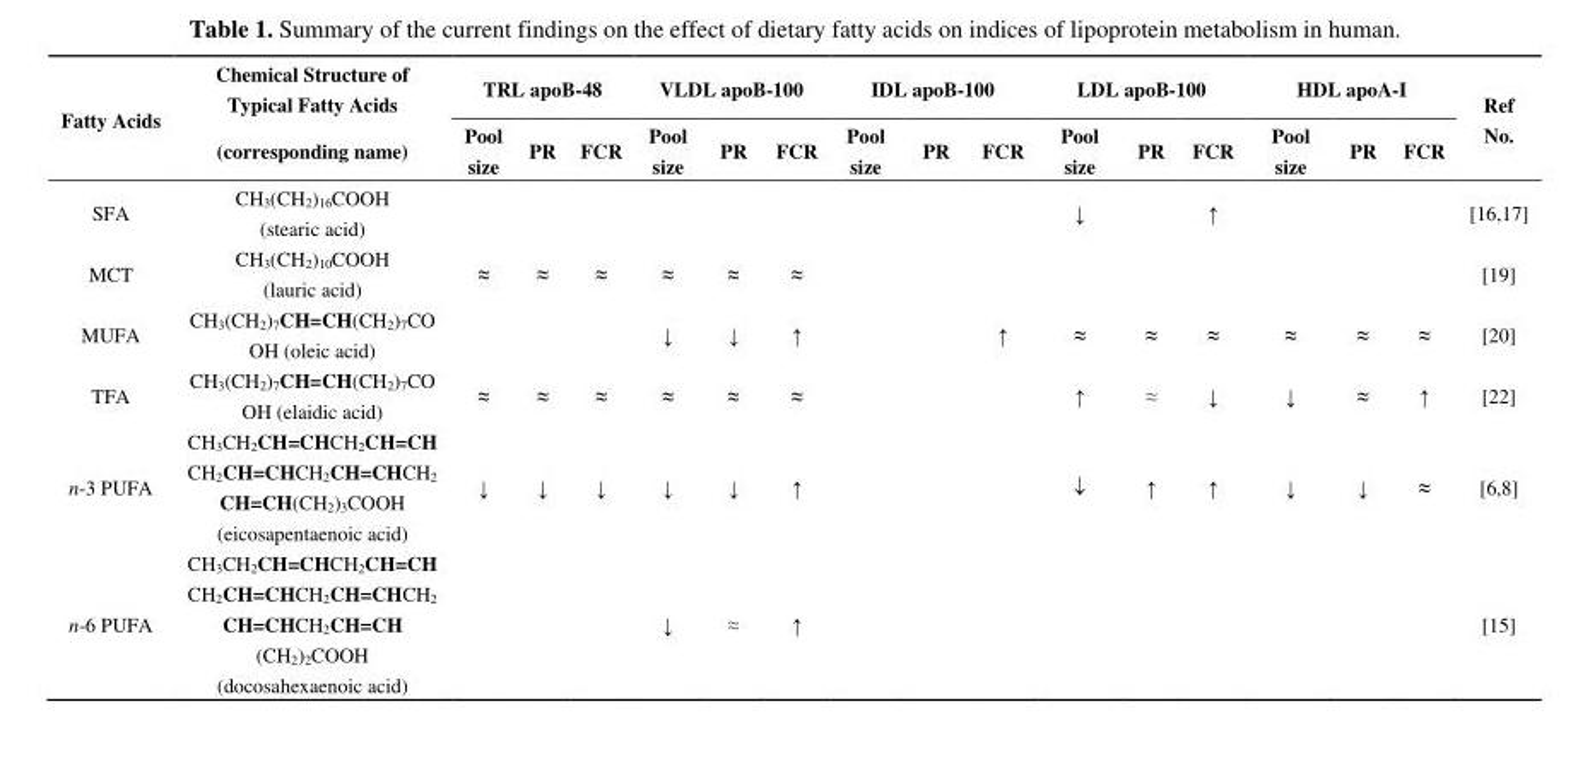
<table><thead><tr><td rowspan="2">Fatty Acids</td><td rowspan="2">Chemical Structure of Typical Fatty Acids (corresponding name)</td><td colspan="3">TRL apoB-48</td><td colspan="3">VLDL apoB-100</td><td colspan="3">IDL apoB-100</td><td colspan="3">LDL apoB-100</td><td colspan="3">HDL apoA-I</td><td rowspan="2">Ref No.</td></tr><tr><td>Pool size</td><td>PR</td><td>FCR</td><td>Pool size</td><td>PR</td><td>FCR</td><td>Pool size</td><td>PR</td><td>FCR</td><td>Pool size</td><td>PR</td><td>FCR</td><td>Pool size</td><td>PR</td><td>FCR</td></tr></thead><tbody><tr><td>SFA</td><td>CH<sub>3</sub>(CH<sub>2</sub>)<sub>16</sub>COOH (stearic acid)</td><td></td><td></td><td></td><td></td><td></td><td></td><td></td><td></td><td></td><td>↓</td><td></td><td>↑</td><td></td><td></td><td></td><td>[16,17]</td></tr><tr><td>MCT</td><td>CH<sub>3</sub>(CH<sub>2</sub>)<sub>10</sub>COOH (lauric acid)</td><td>≈</td><td>≈</td><td>≈</td><td>≈</td><td>≈</td><td>≈</td><td></td><td></td><td></td><td></td><td></td><td></td><td></td><td></td><td></td><td>[19]</td></tr><tr><td>MUFA</td><td>CH<sub>3</sub>(CH<sub>2</sub>)<sub>7</sub>CH=CH(CH<sub>2</sub>)<sub>7</sub>CO OH (oleic acid)</td><td></td><td></td><td></td><td>↓</td><td>↓</td><td>↑</td><td></td><td></td><td>↑</td><td>≈</td><td>≈</td><td>≈</td><td>≈</td><td>≈</td><td>≈</td><td>[20]</td></tr><tr><td>TFA</td><td>CH<sub>3</sub>(CH<sub>2</sub>)<sub>7</sub>CH=CH(CH<sub>2</sub>)<sub>7</sub>CO OH (elaidic acid)</td><td>≈</td><td>≈</td><td>≈</td><td>≈</td><td>≈</td><td>≈</td><td></td><td></td><td></td><td>↑</td><td>≈</td><td>↓</td><td>↓</td><td>≈</td><td>↑</td><td>[22]</td></tr><tr><td>n-3 PUFA</td><td>CH<sub>3</sub>CH<sub>2</sub>CH=CHCH<sub>2</sub>CH=CH CH<sub>2</sub>CH=CHCH<sub>2</sub>CH=CHCH<sub>2</sub> CH=CH(CH<sub>2</sub>)<sub>3</sub>COOH (eicosapentaenoic acid)</td><td>↓</td><td>↓</td><td>↓</td><td>↓</td><td>↓</td><td>↑</td><td></td><td></td><td></td><td>↓</td><td>↑</td><td>↑</td><td>↓</td><td>↓</td><td>≈</td><td>[6,8]</td></tr><tr><td>n-6 PUFA</td><td>CH<sub>3</sub>CH<sub>2</sub>CH=CHCH<sub>2</sub>CH=CH CH<sub>2</sub>CH=CHCH<sub>2</sub>CH=CHCH<sub>2</sub> CH=CHCH<sub>2</sub>CH=CH (CH<sub>2</sub>)<sub>2</sub>COOH (docosahexaenoic acid)</td><td></td><td></td><td></td><td>↓</td><td>≈</td><td>↑</td><td></td><td></td><td></td><td></td><td></td><td></td><td></td><td></td><td></td><td>[15]</td></tr></tbody></table>